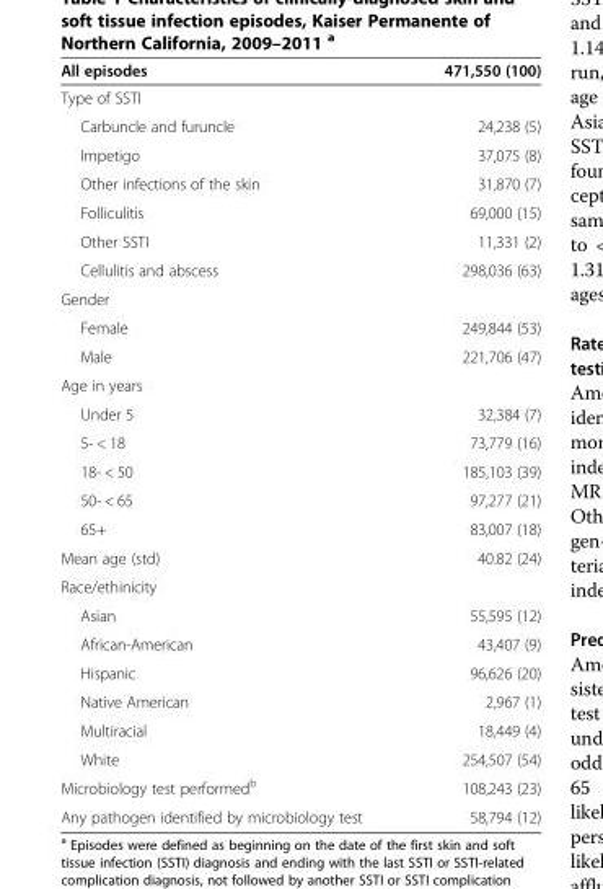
<table><thead><tr><td>All episodes</td><td>471,550 (100)</td></tr></thead><tbody><tr><td colspan="2">Type of SSTI</td></tr><tr><td>Carbuncle and furuncle</td><td>24,238 (5)</td></tr><tr><td>Impetigo</td><td>37,075 (8)</td></tr><tr><td>Other infections of the skin</td><td>31,870 (7)</td></tr><tr><td>Folliculitis</td><td>69,000 (15)</td></tr><tr><td>Other SSTI</td><td>11,331 (2)</td></tr><tr><td>Cellulitis and abscess</td><td>298,036 (63)</td></tr><tr><td colspan="2">Gender</td></tr><tr><td>Female</td><td>249,844 (53)</td></tr><tr><td>Male</td><td>221,706 (47)</td></tr><tr><td colspan="2">Age in years</td></tr><tr><td>Under 5</td><td>32,384 (7)</td></tr><tr><td>5- &lt; 18</td><td>73,779 (16)</td></tr><tr><td>18- &lt; 50</td><td>185,103 (39)</td></tr><tr><td>50- &lt; 65</td><td>97,277 (21)</td></tr><tr><td>65+</td><td>83,007 (18)</td></tr><tr><td>Mean age (std)</td><td>40.82 (24)</td></tr><tr><td colspan="2">Race/ethinicity</td></tr><tr><td>Asian</td><td>55,595 (12)</td></tr><tr><td>African-American</td><td>43,407 (9)</td></tr><tr><td>Hispanic</td><td>96,626 (20)</td></tr><tr><td>Native American</td><td>2,967 (1)</td></tr><tr><td>Multiracial</td><td>18,449 (4)</td></tr><tr><td>White</td><td>254,507 (54)</td></tr><tr><td>Microbiology test performed<sup>b</sup></td><td>108,243 (23)</td></tr><tr><td>Any pathogen identified by microbiology test</td><td>58,794 (12)</td></tr></tbody></table>